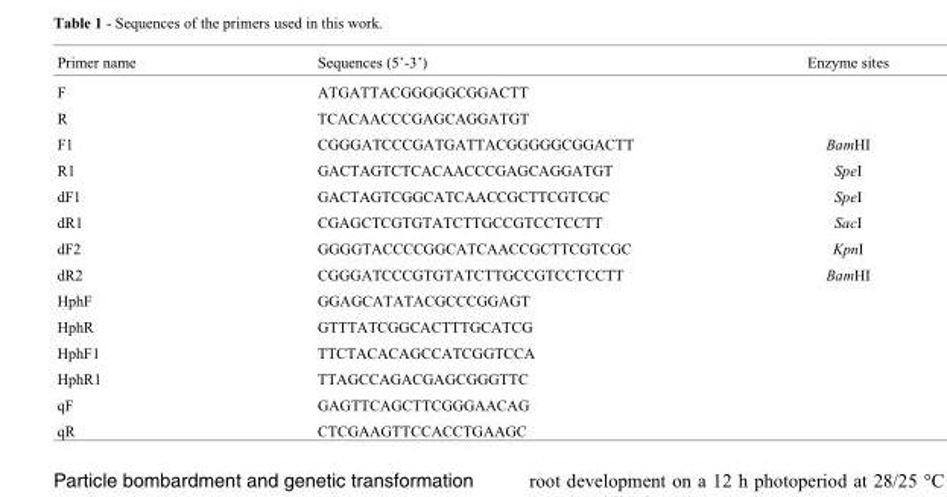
<table><thead><tr><td>Primer name</td><td>Sequences (5’-3’)</td><td>Enzyme sites</td></tr></thead><tbody><tr><td>F</td><td>ATGATTACGGGGGCGGACTT</td><td></td></tr><tr><td>R</td><td>TCACAACCCGAGCAGGATGT</td><td></td></tr><tr><td>F1</td><td>CGGGATCCCGATGATTACGGGGGCGGACTT</td><td>BamHI</td></tr><tr><td>R1</td><td>GACTAGTCTCACAACCCGAGCAGGATGT</td><td>SpeI</td></tr><tr><td>dF1</td><td>GACTAGTCGGCATCAACCGCTTCGTCGC</td><td>SpeI</td></tr><tr><td>dR1</td><td>CGAGCTCGTGTATCTTGCCGTCCTCCTT</td><td>SacI</td></tr><tr><td>dF2</td><td>GGGGTACCCCGGCATCAACCGCTTCGTCGC</td><td>KpnI</td></tr><tr><td>dR2</td><td>CGGGATCCCGTGTATCTTGCCGTCCTCCTT</td><td>BamHI</td></tr><tr><td>HphF</td><td>GGAGCATATACGCCCGGAGT</td><td></td></tr><tr><td>HphR</td><td>GTTTATCGGCACTTTGCATCG</td><td></td></tr><tr><td>HphF1</td><td>TTCTACACAGCCATCGGTCCA</td><td></td></tr><tr><td>HphR1</td><td>TTAGCCAGACGAGCGGGTTC</td><td></td></tr><tr><td>qF</td><td>GAGTTCAGCTTCGGGAACAG</td><td></td></tr><tr><td>qR</td><td>CTCGAAGTTCCACCTGAAGC</td><td></td></tr></tbody></table>